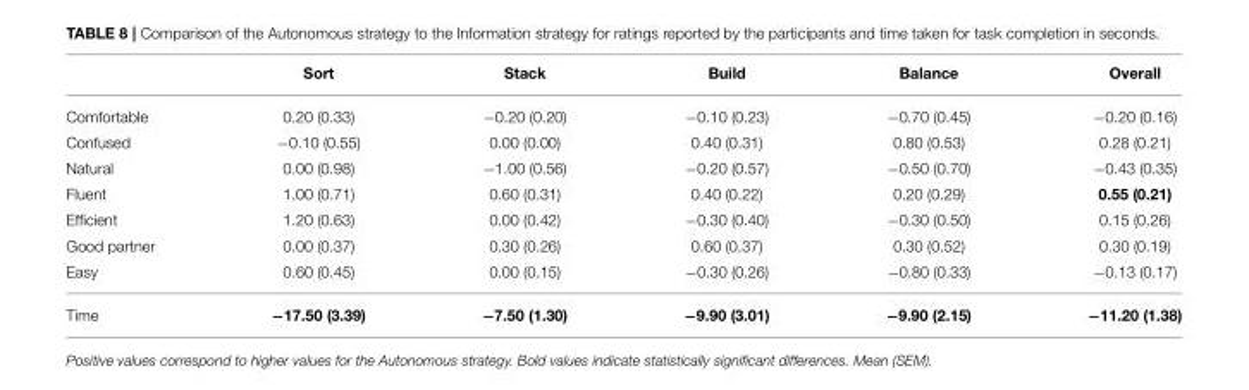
<table><thead><tr><td></td><td>Sort</td><td>Stack</td><td>Build</td><td>Balance</td><td>Overall</td></tr></thead><tbody><tr><td>Comfortable</td><td>0.20 (0.33)</td><td>−0.20 (0.20)</td><td>−0.10 (0.23)</td><td>−0.70 (0.45)</td><td>−0.20 (0.16)</td></tr><tr><td>Confused</td><td>−0.10 (0.55)</td><td>0.00 (0.00)</td><td>0.40 (0.31)</td><td>0.80 (0.53)</td><td>0.28 (0.21)</td></tr><tr><td>Natural</td><td>0.00 (0.98)</td><td>−1.00 (0.56)</td><td>−0.20 (0.57)</td><td>−0.50 (0.70)</td><td>−0.43 (0.35)</td></tr><tr><td>Fluent</td><td>1.00 (0.71)</td><td>0.60 (0.31)</td><td>0.40 (0.22)</td><td>0.20 (0.29)</td><td>0.55 (0.21)</td></tr><tr><td>Efficient</td><td>1.20 (0.63)</td><td>0.00 (0.42)</td><td>−0.30 (0.40)</td><td>−0.30 (0.50)</td><td>0.15 (0.26)</td></tr><tr><td>Good partner</td><td>0.00 (0.37)</td><td>0.30 (0.26)</td><td>0.60 (0.37)</td><td>0.30 (0.52)</td><td>0.30 (0.19)</td></tr><tr><td>Easy</td><td>0.60 (0.45)</td><td>0.00 (0.15)</td><td>−0.30 (0.26)</td><td>−0.80 (0.33)</td><td>−0.13 (0.17)</td></tr><tr><td>Time</td><td>−17.50 (3.39)</td><td>−7.50 (1.30)</td><td>−9.90 (3.01)</td><td>−9.90 (2.15)</td><td>−11.20 (1.38)</td></tr></tbody></table>